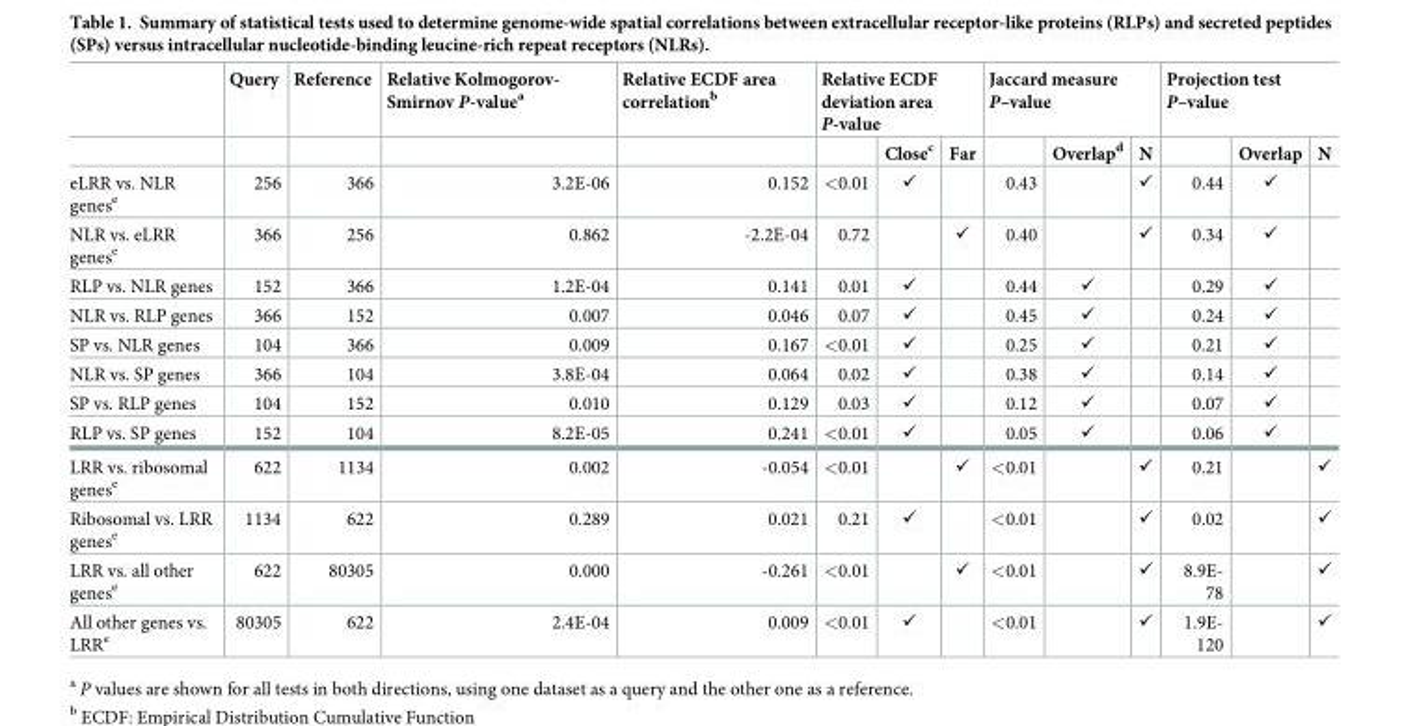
<table><thead><tr><td rowspan="2"></td><td rowspan="2">Query</td><td rowspan="2">Reference</td><td rowspan="2">Relative Kolmogorov- Smirnov P-value<sup>a</sup></td><td rowspan="2">Relative ECDF area correlation<sup>b</sup></td><td colspan="3">Relative ECDF deviation area P-value</td><td colspan="3">Jaccard measure P–value</td><td colspan="3">Projection test P–value</td></tr><tr><td></td><td>Close<sup>c</sup></td><td>Far</td><td></td><td>Overlap<sup>d</sup></td><td>N</td><td></td><td>Overlap</td><td>N</td></tr></thead><tbody><tr><td>eLRR vs. NLR genes<sup>e</sup></td><td>256</td><td>366</td><td>3.2E-06</td><td>0.152</td><td>&lt;0.01</td><td>✓</td><td></td><td>0.43</td><td></td><td>✓</td><td>0.44</td><td>✓</td><td></td></tr><tr><td>NLR vs. eLRR genes<sup>e</sup></td><td>366</td><td>256</td><td>0.862</td><td>-2.2E-04</td><td>0.72</td><td></td><td>✓</td><td>0.40</td><td></td><td>✓</td><td>0.34</td><td>✓</td><td></td></tr><tr><td>RLP vs. NLR genes</td><td>152</td><td>366</td><td>1.2E-04</td><td>0.141</td><td>0.01</td><td>✓</td><td></td><td>0.44</td><td>✓</td><td></td><td>0.29</td><td>✓</td><td></td></tr><tr><td>NLR vs. RLP genes</td><td>366</td><td>152</td><td>0.007</td><td>0.046</td><td>0.07</td><td>✓</td><td></td><td>0.45</td><td>✓</td><td></td><td>0.24</td><td>✓</td><td></td></tr><tr><td>SP vs. NLR genes</td><td>104</td><td>366</td><td>0.009</td><td>0.167</td><td>&lt;0.01</td><td>✓</td><td></td><td>0.25</td><td>✓</td><td></td><td>0.21</td><td>✓</td><td></td></tr><tr><td>NLR vs. SP genes</td><td>366</td><td>104</td><td>3.8E-04</td><td>0.064</td><td>0.02</td><td>✓</td><td></td><td>0.38</td><td>✓</td><td></td><td>0.14</td><td>✓</td><td></td></tr><tr><td>SP vs. RLP genes</td><td>104</td><td>152</td><td>0.010</td><td>0.129</td><td>0.03</td><td>✓</td><td></td><td>0.12</td><td>✓</td><td></td><td>0.07</td><td>✓</td><td></td></tr><tr><td>RLP vs. SP genes</td><td>152</td><td>104</td><td>8.2E-05</td><td>0.241</td><td>&lt;0.01</td><td>✓</td><td></td><td>0.05</td><td>✓</td><td></td><td>0.06</td><td>✓</td><td></td></tr><tr><td>LRR vs. ribosomal genes<sup>e</sup></td><td>622</td><td>1134</td><td>0.002</td><td>-0.054</td><td>&lt;0.01</td><td></td><td>✓</td><td>&lt;0.01</td><td></td><td>✓</td><td>0.21</td><td></td><td>✓</td></tr><tr><td>Ribosomal vs. LRR genes<sup>e</sup></td><td>1134</td><td>622</td><td>0.289</td><td>0.021</td><td>0.21</td><td>✓</td><td></td><td>&lt;0.01</td><td></td><td>✓</td><td>0.02</td><td></td><td>✓</td></tr><tr><td>LRR vs. all other genes<sup>e</sup></td><td>622</td><td>80305</td><td>0.000</td><td>-0.261</td><td>&lt;0.01</td><td></td><td>✓</td><td>&lt;0.01</td><td></td><td>✓</td><td>8.9E- 78</td><td></td><td>✓</td></tr><tr><td>All other genes vs. LRR<sup>e</sup></td><td>80305</td><td>622</td><td>2.4E-04</td><td>0.009</td><td>&lt;0.01</td><td>✓</td><td></td><td>&lt;0.01</td><td></td><td>✓</td><td>1.9E- 120</td><td></td><td>✓</td></tr></tbody></table>